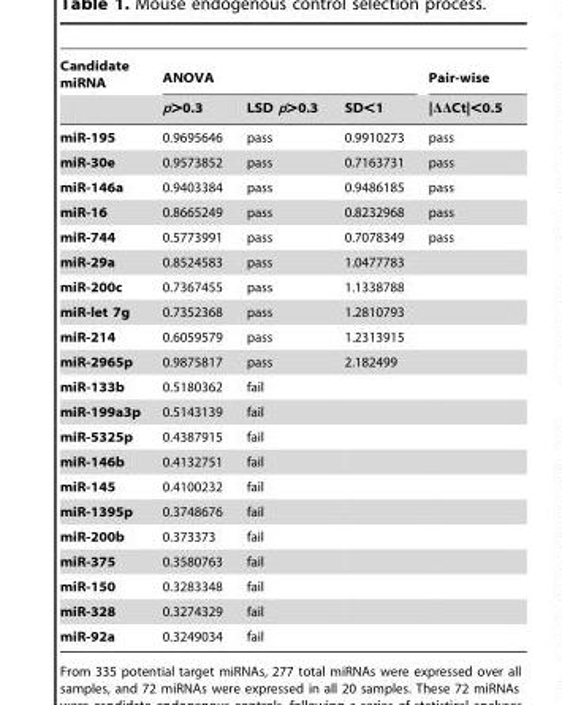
<table><thead><tr><td rowspan="2">Candidate miRNA</td><td colspan="3">ANOVA</td><td rowspan="2">Pair-wise |ΔΔCt|&lt;0.5</td></tr><tr><td>p&gt;0.3</td><td>LSD p&gt;0.3</td><td>SD&lt;1</td></tr></thead><tbody><tr><td>miR-195</td><td>0.9695646</td><td>pass</td><td>0.9910273</td><td>pass</td></tr><tr><td>miR-30e</td><td>0.9573852</td><td>pass</td><td>0.7163731</td><td>pass</td></tr><tr><td>miR-146a</td><td>0.9403384</td><td>pass</td><td>0.9486185</td><td>pass</td></tr><tr><td>miR-16</td><td>0.8665249</td><td>pass</td><td>0.8232968</td><td>pass</td></tr><tr><td>miR-744</td><td>0.5773991</td><td>pass</td><td>0.7078349</td><td>pass</td></tr><tr><td>miR-29a</td><td>0.8524583</td><td>pass</td><td>1.0477783</td><td></td></tr><tr><td>miR-200c</td><td>0.7367455</td><td>pass</td><td>1.1338788</td><td></td></tr><tr><td>miR-let 7g</td><td>0.7352368</td><td>pass</td><td>1.2810793</td><td></td></tr><tr><td>miR-214</td><td>0.6059579</td><td>pass</td><td>1.2313915</td><td></td></tr><tr><td>miR-2965p</td><td>0.9875817</td><td>pass</td><td>2.182499</td><td></td></tr><tr><td>miR-133b</td><td>0.5180362</td><td>fail</td><td></td><td></td></tr><tr><td>miR-199a3p</td><td>0.5143139</td><td>fail</td><td></td><td></td></tr><tr><td>miR-5325p</td><td>0.4387915</td><td>fail</td><td></td><td></td></tr><tr><td>miR-146b</td><td>0.4132751</td><td>fail</td><td></td><td></td></tr><tr><td>miR-145</td><td>0.4100232</td><td>fail</td><td></td><td></td></tr><tr><td>miR-1395p</td><td>0.3748676</td><td>fail</td><td></td><td></td></tr><tr><td>miR-200b</td><td>0.373373</td><td>fail</td><td></td><td></td></tr><tr><td>miR-375</td><td>0.3580763</td><td>fail</td><td></td><td></td></tr><tr><td>miR-150</td><td>0.3283348</td><td>fail</td><td></td><td></td></tr><tr><td>miR-328</td><td>0.3274329</td><td>fail</td><td></td><td></td></tr><tr><td>miR-92a</td><td>0.3249034</td><td>fail</td><td></td><td></td></tr></tbody></table>